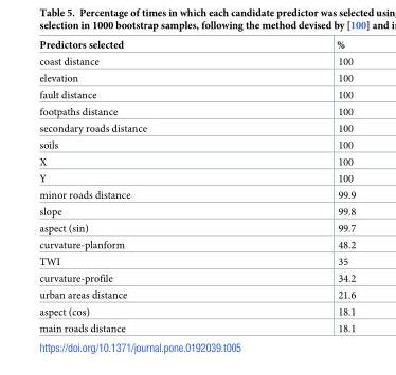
<table><thead><tr><td>Predictors selected</td><td>%</td></tr></thead><tbody><tr><td>coast distance</td><td>100</td></tr><tr><td>elevation</td><td>100</td></tr><tr><td>fault distance</td><td>100</td></tr><tr><td>footpaths distance</td><td>100</td></tr><tr><td>secondary roads distance</td><td>100</td></tr><tr><td>soils</td><td>100</td></tr><tr><td>X</td><td>100</td></tr><tr><td>Y</td><td>100</td></tr><tr><td>minor roads distance</td><td>99.9</td></tr><tr><td>slope</td><td>99.8</td></tr><tr><td>aspect (sin)</td><td>99.7</td></tr><tr><td>curvature-planform</td><td>48.2</td></tr><tr><td>TWI</td><td>35</td></tr><tr><td>curvature-profile</td><td>34.2</td></tr><tr><td>urban areas distance</td><td>21.6</td></tr><tr><td>aspect (cos)</td><td>18.1</td></tr><tr><td>main roads distance</td><td>18.1</td></tr></tbody></table>